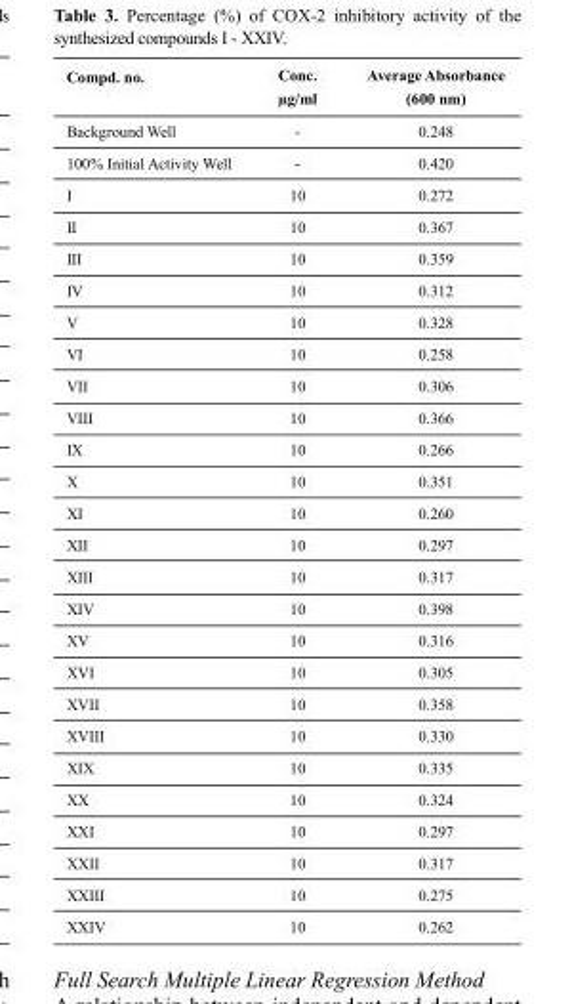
<table><thead><tr><td>Compd. no.</td><td>Conc. µg/ml</td><td>Average Absorbance (600 nm)</td></tr></thead><tbody><tr><td>Background Well</td><td>-</td><td>0.248</td></tr><tr><td>100% Initial Activity Well</td><td>-</td><td>0.420</td></tr><tr><td>I</td><td>10</td><td>0.272</td></tr><tr><td>II</td><td>10</td><td>0.367</td></tr><tr><td>III</td><td>10</td><td>0.359</td></tr><tr><td>IV</td><td>10</td><td>0.312</td></tr><tr><td>V</td><td>10</td><td>0.328</td></tr><tr><td>VI</td><td>10</td><td>0.258</td></tr><tr><td>VII</td><td>10</td><td>0.306</td></tr><tr><td>VIII</td><td>10</td><td>0.366</td></tr><tr><td>IX</td><td>10</td><td>0.266</td></tr><tr><td>X</td><td>10</td><td>0.351</td></tr><tr><td>XI</td><td>10</td><td>0.260</td></tr><tr><td>XII</td><td>10</td><td>0.297</td></tr><tr><td>XIII</td><td>10</td><td>0.317</td></tr><tr><td>XIV</td><td>10</td><td>0.398</td></tr><tr><td>XV</td><td>10</td><td>0.316</td></tr><tr><td>XVI</td><td>10</td><td>0.305</td></tr><tr><td>XVII</td><td>10</td><td>0.358</td></tr><tr><td>XVIII</td><td>10</td><td>0.330</td></tr><tr><td>XIX</td><td>10</td><td>0.335</td></tr><tr><td>XX</td><td>10</td><td>0.324</td></tr><tr><td>XXI</td><td>10</td><td>0.297</td></tr><tr><td>XXII</td><td>10</td><td>0.317</td></tr><tr><td>XXIII</td><td>10</td><td>0.275</td></tr><tr><td>XXIV</td><td>10</td><td>0.262</td></tr></tbody></table>